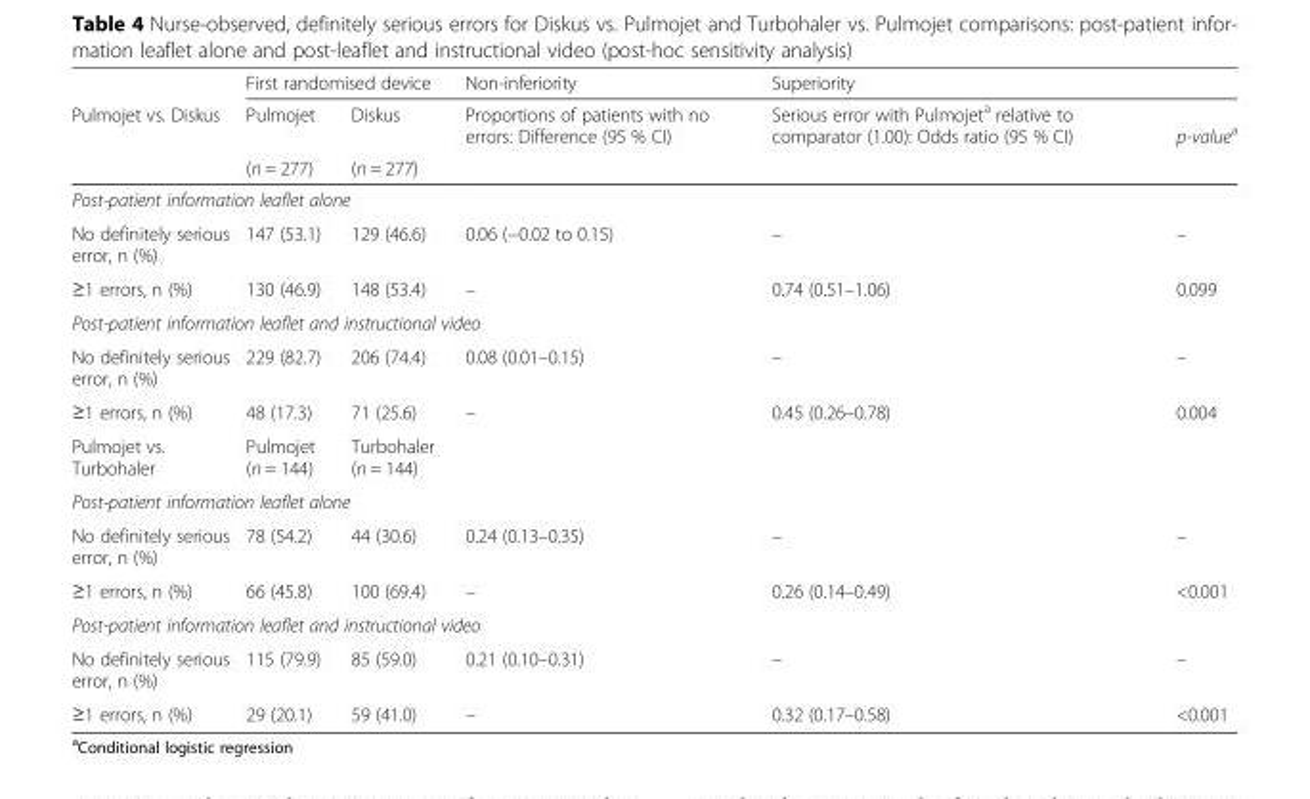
<table><thead><tr><td rowspan="3">Pulmojet vs. Diskus</td><td colspan="2">First randomised device</td><td rowspan="3">Non-inferiority Proportions of patients with no errors: Difference (95 % CI)</td><td colspan="2">Superiority</td></tr><tr><td rowspan="2">Pulmojet (n = 277)</td><td rowspan="2">Diskus (n = 277)</td><td rowspan="2">Serious error with Pulmojet<sup>a</sup> relative to comparator (1.00): Odds ratio (95 % CI)</td><td rowspan="2">p-value<sup>a</sup></td></tr><tr></tr></thead><tbody><tr><td colspan="6">Post-patient information leaflet alone</td></tr><tr><td>No definitely serious error, n (%)</td><td>147 (53.1)</td><td>129 (46.6)</td><td>0.06 (−0.02 to 0.15)</td><td>–</td><td>–</td></tr><tr><td>≥1 errors, n (%)</td><td>130 (46.9)</td><td>148 (53.4)</td><td>–</td><td>0.74 (0.51–1.06)</td><td>0.099</td></tr><tr><td colspan="6">Post-patient information leaflet and instructional video</td></tr><tr><td>No definitely serious error, n (%)</td><td>229 (82.7)</td><td>206 (74.4)</td><td>0.08 (0.01–0.15)</td><td>–</td><td>–</td></tr><tr><td>≥1 errors, n (%)</td><td>48 (17.3)</td><td>71 (25.6)</td><td>–</td><td>0.45 (0.26–0.78)</td><td>0.004</td></tr><tr><td>Pulmojet vs. Turbohaler</td><td>Pulmojet (n = 144)</td><td>Turbohaler (n = 144)</td><td></td><td></td><td></td></tr><tr><td colspan="6">Post-patient information leaflet alone</td></tr><tr><td>No definitely serious error, n (%)</td><td>78 (54.2)</td><td>44 (30.6)</td><td>0.24 (0.13–0.35)</td><td>–</td><td>–</td></tr><tr><td>≥1 errors, n (%)</td><td>66 (45.8)</td><td>100 (69.4)</td><td>–</td><td>0.26 (0.14–0.49)</td><td>&lt;0.001</td></tr><tr><td colspan="6">Post-patient information leaflet and instructional video</td></tr><tr><td>No definitely serious error, n (%)</td><td>115 (79.9)</td><td>85 (59.0)</td><td>0.21 (0.10–0.31)</td><td>–</td><td>–</td></tr><tr><td>≥1 errors, n (%)</td><td>29 (20.1)</td><td>59 (41.0)</td><td>–</td><td>0.32 (0.17–0.58)</td><td>&lt;0.001</td></tr></tbody></table>